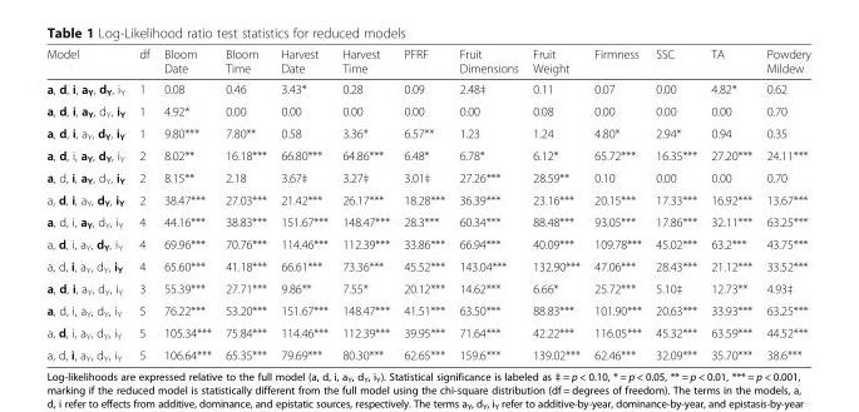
<table><thead><tr><td>Model</td><td>df</td><td>Bloom Date</td><td>Bloom Time</td><td>Harvest Date</td><td>Harvest Time</td><td>PFRF</td><td>Fruit Dimensions</td><td>Fruit Weight</td><td>Firmness</td><td>SSC</td><td>TA</td><td>Powdery Mildew</td></tr></thead><tbody><tr><td>a, d, i, a<sub>Y</sub>, d<sub>Y</sub>, i<sub>Y</sub></td><td>1</td><td>0.08</td><td>0.46</td><td>3.43*</td><td>0.28</td><td>0.09</td><td>2.48‡</td><td>0.11</td><td>0.07</td><td>0.00</td><td>4.82*</td><td>0.62</td></tr><tr><td>a, d, i, a<sub>Y</sub>, d<sub>Y</sub>, i<sub>Y</sub></td><td>1</td><td>4.92*</td><td>0.00</td><td>0.00</td><td>0.00</td><td>0.00</td><td>0.00</td><td>0.08</td><td>0.00</td><td>0.00</td><td>0.00</td><td>0.70</td></tr><tr><td>a, d, i, a<sub>Y</sub>, d<sub>Y</sub>, i<sub>Y</sub></td><td>1</td><td>9.80***</td><td>7.80**</td><td>0.58</td><td>3.36*</td><td>6.57**</td><td>1.23</td><td>1.24</td><td>4.80*</td><td>2.94*</td><td>0.94</td><td>0.35</td></tr><tr><td>a, d, i, a<sub>Y</sub>, d<sub>Y</sub>, i<sub>Y</sub></td><td>2</td><td>8.02**</td><td>16.18***</td><td>66.80***</td><td>64.86***</td><td>6.48*</td><td>6.78*</td><td>6.12*</td><td>65.72***</td><td>16.35***</td><td>27.20***</td><td>24.11***</td></tr><tr><td>a, d, i, a<sub>Y</sub>, d<sub>Y</sub>, i<sub>Y</sub></td><td>2</td><td>8.15**</td><td>2.18</td><td>3.67‡</td><td>3.27‡</td><td>3.01‡</td><td>27.26***</td><td>28.59**</td><td>0.10</td><td>0.00</td><td>0.00</td><td>0.70</td></tr><tr><td>a, d, i, a<sub>Y</sub>, d<sub>Y</sub>, i<sub>Y</sub></td><td>2</td><td>38.47***</td><td>27.03***</td><td>21.42***</td><td>26.17***</td><td>18.28***</td><td>36.39***</td><td>23.16***</td><td>20.15***</td><td>17.33***</td><td>16.92***</td><td>13.67***</td></tr><tr><td>a, d, i, a<sub>Y</sub>, d<sub>Y</sub>, i<sub>Y</sub></td><td>4</td><td>44.16***</td><td>38.83***</td><td>151.67***</td><td>148.47***</td><td>28.3***</td><td>60.34***</td><td>88.48***</td><td>93.05***</td><td>17.86***</td><td>32.11***</td><td>63.25***</td></tr><tr><td>a, d, i, a<sub>Y</sub>, d<sub>Y</sub>, i<sub>Y</sub></td><td>4</td><td>69.96***</td><td>70.76***</td><td>114.46***</td><td>112.39***</td><td>33.86***</td><td>66.94***</td><td>40.09***</td><td>109.78***</td><td>45.02***</td><td>63.2***</td><td>43.75***</td></tr><tr><td>a, d, i, a<sub>Y</sub>, d<sub>Y</sub>, i<sub>Y</sub></td><td>4</td><td>65.60***</td><td>41.18***</td><td>66.61***</td><td>73.36***</td><td>45.52***</td><td>143.04***</td><td>132.90***</td><td>47.06***</td><td>28.43***</td><td>21.12***</td><td>33.52***</td></tr><tr><td>a, d, i, a<sub>Y</sub>, d<sub>Y</sub>, i<sub>Y</sub></td><td>3</td><td>55.39***</td><td>27.71***</td><td>9.86**</td><td>7.55*</td><td>20.12***</td><td>14.62***</td><td>6.66*</td><td>25.72***</td><td>5.10‡</td><td>12.73**</td><td>4.93‡</td></tr><tr><td>a, d, i, a<sub>Y</sub>, d<sub>Y</sub>, i<sub>Y</sub></td><td>5</td><td>76.22***</td><td>53.20***</td><td>151.67***</td><td>148.47***</td><td>41.51***</td><td>63.50***</td><td>88.83***</td><td>101.90***</td><td>20.63***</td><td>33.93***</td><td>63.25***</td></tr><tr><td>a, d, i, a<sub>Y</sub>, d<sub>Y</sub>, i<sub>Y</sub></td><td>5</td><td>105.34***</td><td>75.84***</td><td>114.46***</td><td>112.39***</td><td>39.95***</td><td>71.64***</td><td>42.22***</td><td>116.05***</td><td>45.32***</td><td>63.59***</td><td>44.52***</td></tr><tr><td>a, d, i, a<sub>Y</sub>, d<sub>Y</sub>, i<sub>Y</sub></td><td>5</td><td>106.64***</td><td>65.35***</td><td>79.69***</td><td>80.30***</td><td>62.65***</td><td>159.6***</td><td>139.02***</td><td>62.46***</td><td>32.09***</td><td>35.70***</td><td>38.6***</td></tr></tbody></table>